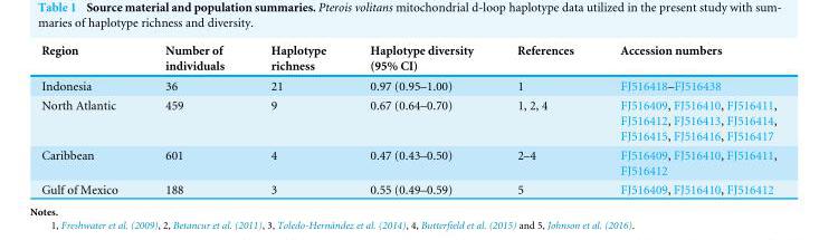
<table><thead><tr><td>Region</td><td>Number of individuals</td><td>Haplotype richness</td><td>Haplotype diversity (95% CI)</td><td>References</td><td>Accession numbers</td></tr></thead><tbody><tr><td>Indonesia</td><td>36</td><td>21</td><td>0.97 (0.95–1.00)</td><td>1</td><td>FJ516418–FJ516438</td></tr><tr><td>North Atlantic</td><td>459</td><td>9</td><td>0.67 (0.64–0.70)</td><td>1, 2, 4</td><td>FJ516409, FJ516410, FJ516411, FJ516412, FJ516413, FJ516414, FJ516415, FJ516416, FJ516417</td></tr><tr><td>Caribbean</td><td>601</td><td>4</td><td>0.47 (0.43–0.50)</td><td>2–4</td><td>FJ516409, FJ516410, FJ516411, FJ516412</td></tr><tr><td>Gulf of Mexico</td><td>188</td><td>3</td><td>0.55 (0.49–0.59)</td><td>5</td><td>FJ516409, FJ516410, FJ516412</td></tr></tbody></table>